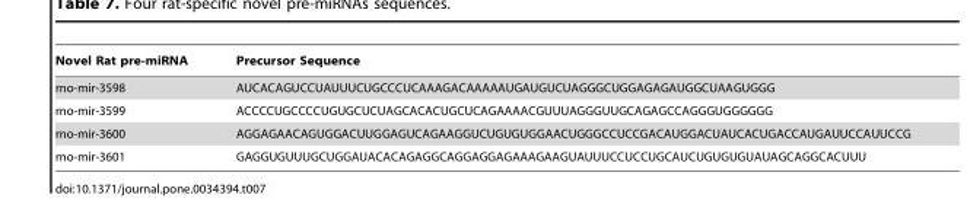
<table><thead><tr><td>Novel Rat pre-miRNA</td><td>Precursor Sequence</td></tr></thead><tbody><tr><td>rno-mir-3598</td><td>AUCACAGUCCUAUUUCUGCCCUCAAAGACAAAAAUGAUGUCUAGGGCUGGAGAGAUGGCUAAGUGGG</td></tr><tr><td>rno-mir-3599</td><td>ACCCCUGCCCCUGUGCUCUAGCACACUGCUCAGAAAACGUUUAGGGUUGCAGAGCCAGGGUGGGGGG</td></tr><tr><td>rno-mir-3600</td><td>AGGAGAACAGUGGACUUGGAGUCAGAAGGUCUGUGUGGAACUGGGCCUCCGACAUGGACUAUCACUGACCAUGAUUCCAUUCCG</td></tr><tr><td>rno-mir-3601</td><td>GAGGUGUUUGCUGGAUACACAGAGGCAGGAGGAGAAAGAAGUAUUUCCUCCUGCAUCUGUGUGUAUAGCAGGCACUUU</td></tr></tbody></table>